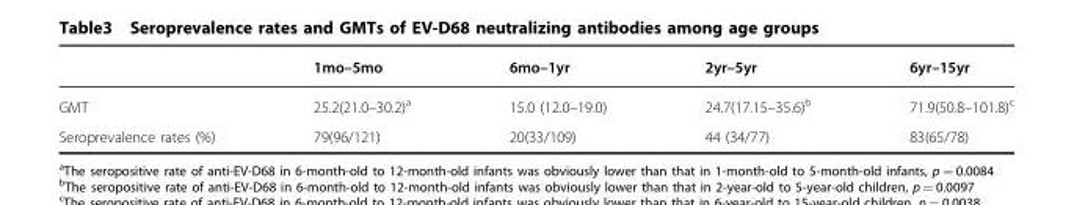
<table><thead><tr><td></td><td>1mo–5mo</td><td>6mo–1yr</td><td>2yr–5yr</td><td>6yr–15yr</td></tr></thead><tbody><tr><td>GMT</td><td>25.2(21.0–30.2)<sup>a</sup></td><td>15.0 (12.0–19.0)</td><td>24.7(17.15–35.6)<sup>b</sup></td><td>71.9(50.8–101.8)<sup>c</sup></td></tr><tr><td>Seroprevalence rates (%)</td><td>79(96/121)</td><td>20(33/109)</td><td>44 (34/77)</td><td>83(65/78)</td></tr></tbody></table>